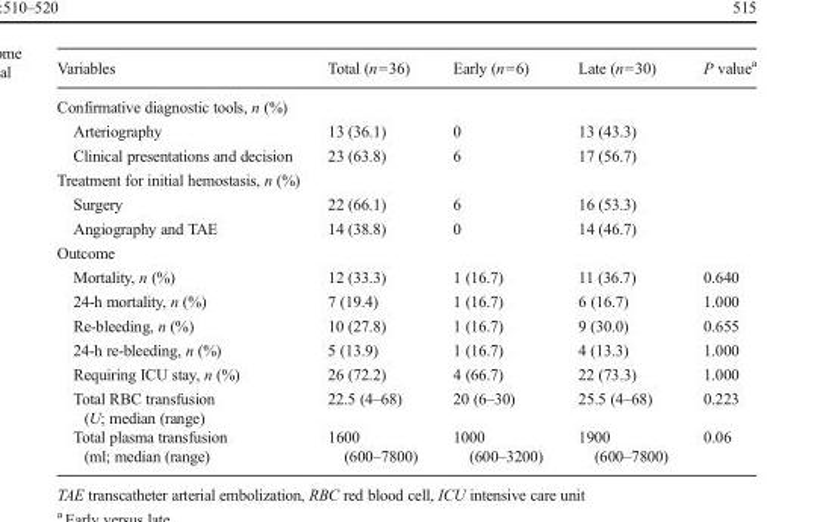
<table><thead><tr><td>Variables</td><td>Total (n=36)</td><td>Early (n=6)</td><td>Late (n=30)</td><td>P value<sup>a</sup></td></tr></thead><tbody><tr><td colspan="5">Confirmative diagnostic tools, n (%)</td></tr><tr><td>Arteriography</td><td>13 (36.1)</td><td>0</td><td>13 (43.3)</td><td></td></tr><tr><td>Clinical presentations and decision</td><td>23 (63.8)</td><td>6</td><td>17 (56.7)</td><td></td></tr><tr><td colspan="5">Treatment for initial hemostasis, n (%)</td></tr><tr><td>Surgery</td><td>22 (66.1)</td><td>6</td><td>16 (53.3)</td><td></td></tr><tr><td>Angiography and TAE</td><td>14 (38.8)</td><td>0</td><td>14 (46.7)</td><td></td></tr><tr><td colspan="5">Outcome</td></tr><tr><td>Mortality, n (%)</td><td>12 (33.3)</td><td>1 (16.7)</td><td>11 (36.7)</td><td>0.640</td></tr><tr><td>24-h mortality, n (%)</td><td>7 (19.4)</td><td>1 (16.7)</td><td>6 (16.7)</td><td>1.000</td></tr><tr><td>Re-bleeding, n (%)</td><td>10 (27.8)</td><td>1 (16.7)</td><td>9 (30.0)</td><td>0.655</td></tr><tr><td>24-h re-bleeding, n (%)</td><td>5 (13.9)</td><td>1 (16.7)</td><td>4 (13.3)</td><td>1.000</td></tr><tr><td>Requiring ICU stay, n (%)</td><td>26 (72.2)</td><td>4 (66.7)</td><td>22 (73.3)</td><td>1.000</td></tr><tr><td>Total RBC transfusion (U; median (range)</td><td>22.5 (4–68)</td><td>20 (6–30)</td><td>25.5 (4–68)</td><td>0.223</td></tr><tr><td>Total plasma transfusion (ml; median (range)</td><td>1600 (600–7800)</td><td>1000 (600–3200)</td><td>1900 (600–7800)</td><td>0.06</td></tr></tbody></table>